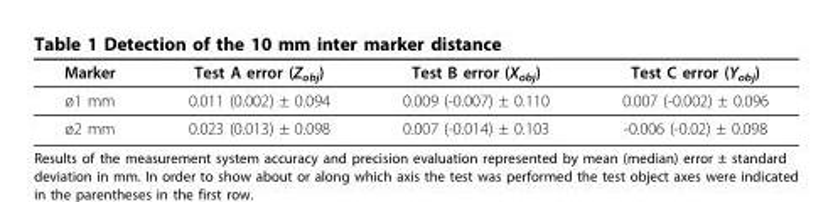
<table><thead><tr><td>Marker</td><td>Test A error (Z<sub>obj</sub>)</td><td>Test B error (X<sub>obj</sub>)</td><td>Test C error (Y<sub>obj</sub>)</td></tr></thead><tbody><tr><td>ø1 mm</td><td>0.011 (0.002) ± 0.094</td><td>0.009 (-0.007) ± 0.110</td><td>0.007 (-0.002) ± 0.096</td></tr><tr><td>ø2 mm</td><td>0.023 (0.013) ± 0.098</td><td>0.007 (-0.014) ± 0.103</td><td>-0.006 (-0.02) ± 0.098</td></tr></tbody></table>